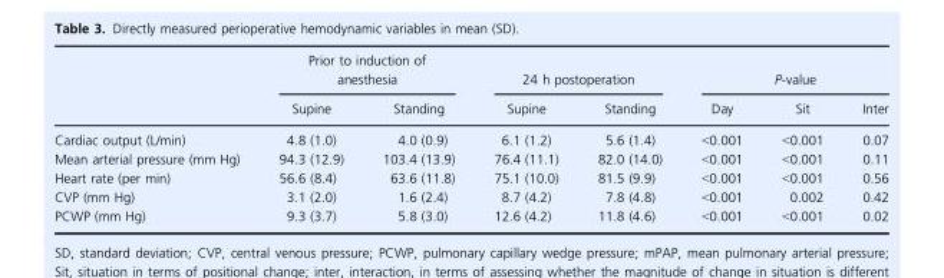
<table><thead><tr><td rowspan="2"></td><td colspan="2">Prior to induction of anesthesia</td><td colspan="2">24 h postoperation</td><td colspan="3">P-value</td></tr><tr><td>Supine</td><td>Standing</td><td>Supine</td><td>Standing</td><td>Day</td><td>Sit</td><td>Inter</td></tr></thead><tbody><tr><td>Cardiac output (L/min)</td><td>4.8 (1.0)</td><td>4.0 (0.9)</td><td>6.1 (1.2)</td><td>5.6 (1.4)</td><td>&lt;0.001</td><td>&lt;0.001</td><td>0.07</td></tr><tr><td>Mean arterial pressure (mm Hg)</td><td>94.3 (12.9)</td><td>103.4 (13.9)</td><td>76.4 (11.1)</td><td>82.0 (14.0)</td><td>&lt;0.001</td><td>&lt;0.001</td><td>0.11</td></tr><tr><td>Heart rate (per min)</td><td>56.6 (8.4)</td><td>63.6 (11.8)</td><td>75.1 (10.0)</td><td>81.5 (9.9)</td><td>&lt;0.001</td><td>&lt;0.001</td><td>0.56</td></tr><tr><td>CVP (mm Hg)</td><td>3.1 (2.0)</td><td>1.6 (2.4)</td><td>8.7 (4.2)</td><td>7.8 (4.8)</td><td>&lt;0.001</td><td>0.002</td><td>0.42</td></tr><tr><td>PCWP (mm Hg)</td><td>9.3 (3.7)</td><td>5.8 (3.0)</td><td>12.6 (4.2)</td><td>11.8 (4.6)</td><td>&lt;0.001</td><td>&lt;0.001</td><td>0.02</td></tr></tbody></table>